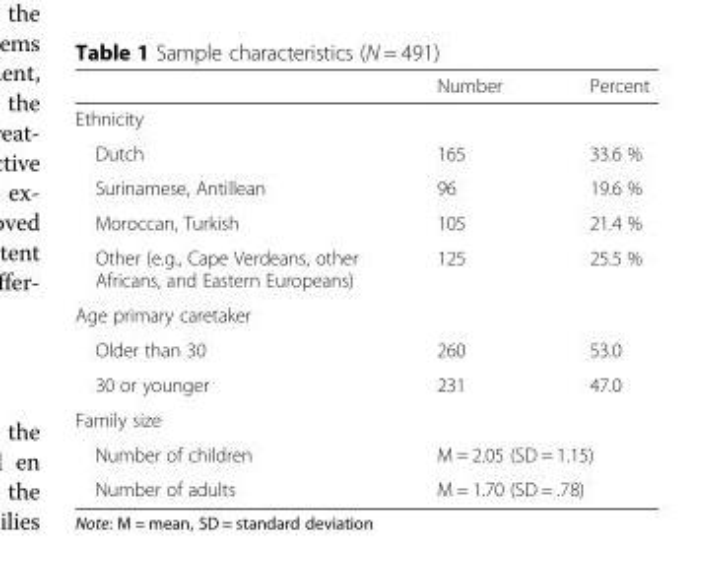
<table><thead><tr><td></td><td>Number</td><td>Percent</td></tr></thead><tbody><tr><td colspan="3">Ethnicity</td></tr><tr><td>Dutch</td><td>165</td><td>33.6 %</td></tr><tr><td>Surinamese, Antillean</td><td>96</td><td>19.6 %</td></tr><tr><td>Moroccan, Turkish</td><td>105</td><td>21.4 %</td></tr><tr><td>Other (e.g., Cape Verdeans, other Africans, and Eastern Europeans)</td><td>125</td><td>25.5 %</td></tr><tr><td colspan="3">Age primary caretaker</td></tr><tr><td>Older than 30</td><td>260</td><td>53.0</td></tr><tr><td>30 or younger</td><td>231</td><td>47.0</td></tr><tr><td colspan="3">Family size</td></tr><tr><td>Number of children</td><td colspan="2">M = 2.05 (SD = 1.15)</td></tr><tr><td>Number of adults</td><td colspan="2">M = 1.70 (SD = .78)</td></tr></tbody></table>